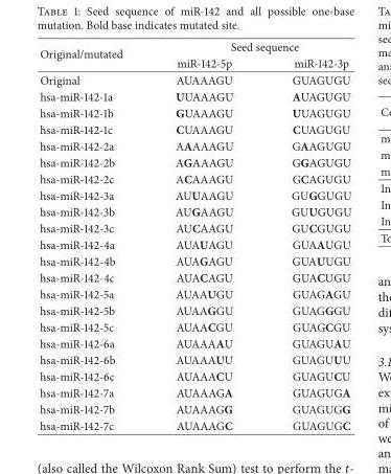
<table><thead><tr><td rowspan="2">Original/mutated</td><td colspan="2">Seed sequence</td></tr><tr><td>miR-142-5p</td><td>miR-142-3p</td></tr></thead><tbody><tr><td>Original</td><td>AUAAAGU</td><td>GUAGUGU</td></tr><tr><td>hsa-miR-142-1a</td><td>UUAAAGU</td><td>AUAGUGU</td></tr><tr><td>hsa-miR-142-1b</td><td>GUAAAGU</td><td>UUAGUGU</td></tr><tr><td>hsa-miR-142-1c</td><td>CUAAAGU</td><td>CUAGUGU</td></tr><tr><td>hsa-miR-142-2a</td><td>AAAAAGU</td><td>GAAGUGU</td></tr><tr><td>hsa-miR-142-2b</td><td>AGAAAGU</td><td>GGAGUGU</td></tr><tr><td>hsa-miR-142-2c</td><td>ACAAAGU</td><td>GCAGUGU</td></tr><tr><td>hsa-miR-142-3a</td><td>AUUAAGU</td><td>GUGGUGU</td></tr><tr><td>hsa-miR-142-3b</td><td>AUGAAGU</td><td>GUUGUGU</td></tr><tr><td>hsa-miR-142-3c</td><td>AUCAAGU</td><td>GUCGUGU</td></tr><tr><td>hsa-miR-142-4a</td><td>AUAUAGU</td><td>GUAAUGU</td></tr><tr><td>hsa-miR-142-4b</td><td>AUAGAGU</td><td>GUAUUGU</td></tr><tr><td>hsa-miR-142-4c</td><td>AUACAGU</td><td>GUACUGU</td></tr><tr><td>hsa-miR-142-5a</td><td>AUAAUGU</td><td>GUAGAGU</td></tr><tr><td>hsa-miR-142-5b</td><td>AUAAGGU</td><td>GUAGGGU</td></tr><tr><td>hsa-miR-142-5c</td><td>AUAACGU</td><td>GUAGCGU</td></tr><tr><td>hsa-miR-142-6a</td><td>AUAAAAU</td><td>GUAGUAU</td></tr><tr><td>hsa-miR-142-6b</td><td>AUAAAUU</td><td>GUAGUUU</td></tr><tr><td>hsa-miR-142-6c</td><td>AUAAACU</td><td>GUAGUCU</td></tr><tr><td>hsa-miR-142-7a</td><td>AUAAAGA</td><td>GUAGUGA</td></tr><tr><td>hsa-miR-142-7b</td><td>AUAAAGG</td><td>GUAGUGG</td></tr><tr><td>hsa-miR-142-7c</td><td>AUAAAGC</td><td>GUAGUGC</td></tr></tbody></table>